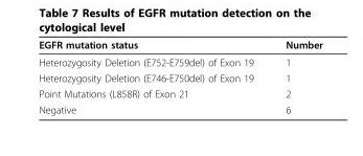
<table><thead><tr><td>EGFR mutation status</td><td>Number</td></tr></thead><tbody><tr><td>Heterozygosity Deletion (E752-E759del) of Exon 19</td><td>1</td></tr><tr><td>Heterozygosity Deletion (E746-E750del) of Exon 19</td><td>1</td></tr><tr><td>Point Mutations (L858R) of Exon 21</td><td>2</td></tr><tr><td>Negative</td><td>6</td></tr></tbody></table>